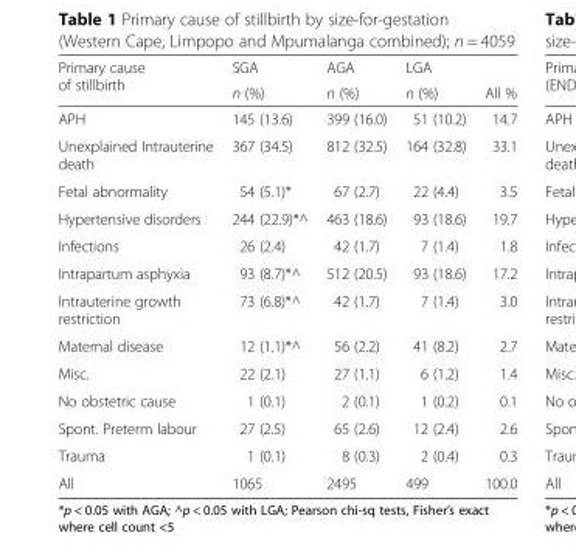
<table><thead><tr><td rowspan="2">Primary cause of stillbirth</td><td rowspan="2">SGA n (%)</td><td rowspan="2">AGA n (%)</td><td rowspan="2">LGA n (%)</td><td rowspan="2">All %</td></tr><tr></tr></thead><tbody><tr><td>APH</td><td>145 (13.6)</td><td>399 (16.0)</td><td>51 (10.2)</td><td>14.7</td></tr><tr><td>Unexplained Intrauterine death</td><td>367 (34.5)</td><td>812 (32.5)</td><td>164 (32.8)</td><td>33.1</td></tr><tr><td>Fetal abnormality</td><td>54 (5.1)*</td><td>67 (2.7)</td><td>22 (4.4)</td><td>3.5</td></tr><tr><td>Hypertensive disorders</td><td>244 (22.9)*^</td><td>463 (18.6)</td><td>93 (18.6)</td><td>19.7</td></tr><tr><td>Infections</td><td>26 (2.4)</td><td>42 (1.7)</td><td>7 (1.4)</td><td>1.8</td></tr><tr><td>Intrapartum asphyxia</td><td>93 (8.7)*^</td><td>512 (20.5)</td><td>93 (18.6)</td><td>17.2</td></tr><tr><td>Intrauterine growth restriction</td><td>73 (6.8)*^</td><td>42 (1.7)</td><td>7 (1.4)</td><td>3.0</td></tr><tr><td>Maternal disease</td><td>12 (1.1)*^</td><td>56 (2.2)</td><td>41 (8.2)</td><td>2.7</td></tr><tr><td>Misc.</td><td>22 (2.1)</td><td>27 (1.1)</td><td>6 (1.2)</td><td>1.4</td></tr><tr><td>No obstetric cause</td><td>1 (0.1)</td><td>2 (0.1)</td><td>1 (0.2)</td><td>0.1</td></tr><tr><td>Spont. Preterm labour</td><td>27 (2.5)</td><td>65 (2.6)</td><td>12 (2.4)</td><td>2.6</td></tr><tr><td>Trauma</td><td>1 (0.1)</td><td>8 (0.3)</td><td>2 (0.4)</td><td>0.3</td></tr><tr><td>All</td><td>1065</td><td>2495</td><td>499</td><td>100.0</td></tr></tbody></table>